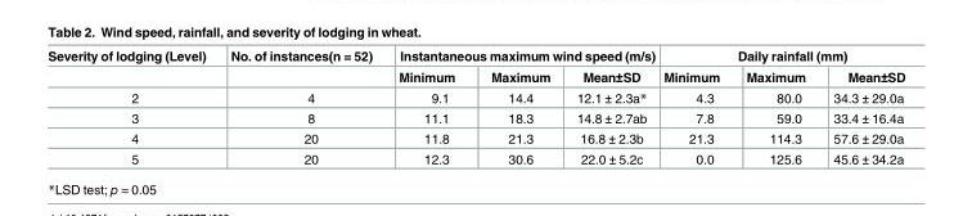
<table><thead><tr><td rowspan="2">Severity of lodging (Level)</td><td rowspan="2">No. of instances(n = 52)</td><td colspan="3">Instantaneous maximum wind speed (m/s)</td><td colspan="3">Daily rainfall (mm)</td></tr><tr><td>Minimum</td><td>Maximum</td><td>Mean±SD</td><td>Minimum</td><td>Maximum</td><td>Mean±SD</td></tr></thead><tbody><tr><td>2</td><td>4</td><td>9.1</td><td>14.4</td><td>12.1 ± 2.3a*</td><td>4.3</td><td>80.0</td><td>34.3 ± 29.0a</td></tr><tr><td>3</td><td>8</td><td>11.1</td><td>18.3</td><td>14.8 ± 2.7ab</td><td>7.8</td><td>59.0</td><td>33.4 ± 16.4a</td></tr><tr><td>4</td><td>20</td><td>11.8</td><td>21.3</td><td>16.8 ± 2.3b</td><td>21.3</td><td>114.3</td><td>57.6 ± 29.0a</td></tr><tr><td>5</td><td>20</td><td>12.3</td><td>30.6</td><td>22.0 ± 5.2c</td><td>0.0</td><td>125.6</td><td>45.6 ± 34.2a</td></tr></tbody></table>